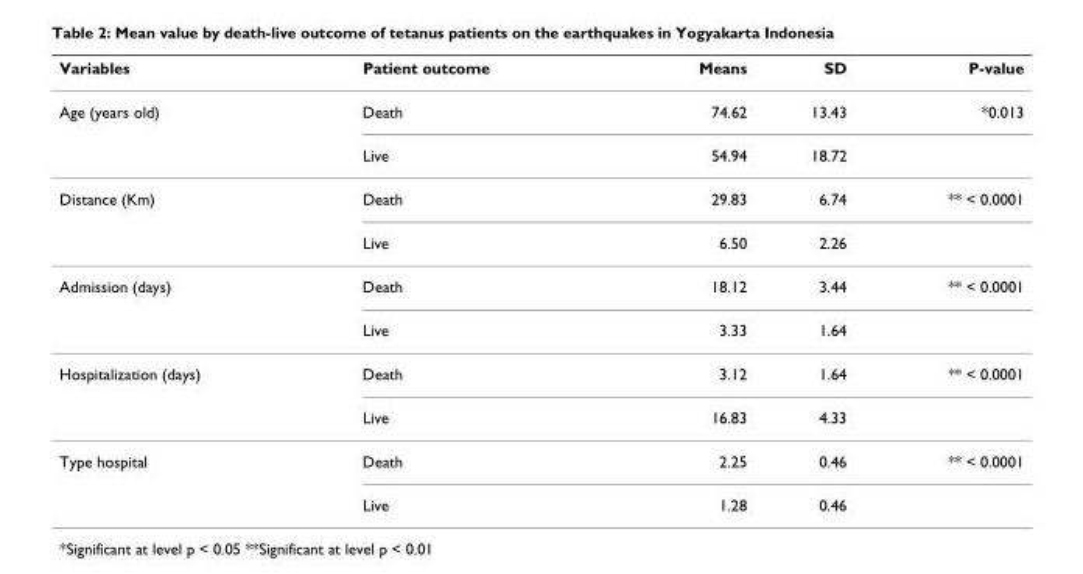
<table><thead><tr><td>Variables</td><td>Patient outcome</td><td>Means</td><td>SD</td><td>P-value</td></tr></thead><tbody><tr><td rowspan="2">Age (years old)</td><td>Death</td><td>74.62</td><td>13.43</td><td>*0.013</td></tr><tr><td>Live</td><td>54.94</td><td>18.72</td><td></td></tr><tr><td rowspan="2">Distance (Km)</td><td>Death</td><td>29.83</td><td>6.74</td><td>** &lt; 0.0001</td></tr><tr><td>Live</td><td>6.50</td><td>2.26</td><td></td></tr><tr><td rowspan="2">Admission (days)</td><td>Death</td><td>18.12</td><td>3.44</td><td>** &lt; 0.0001</td></tr><tr><td>Live</td><td>3.33</td><td>1.64</td><td></td></tr><tr><td rowspan="2">Hospitalization (days)</td><td>Death</td><td>3.12</td><td>1.64</td><td>** &lt; 0.0001</td></tr><tr><td>Live</td><td>16.83</td><td>4.33</td><td></td></tr><tr><td rowspan="2">Type hospital</td><td>Death</td><td>2.25</td><td>0.46</td><td>** &lt; 0.0001</td></tr><tr><td>Live</td><td>1.28</td><td>0.46</td><td></td></tr></tbody></table>